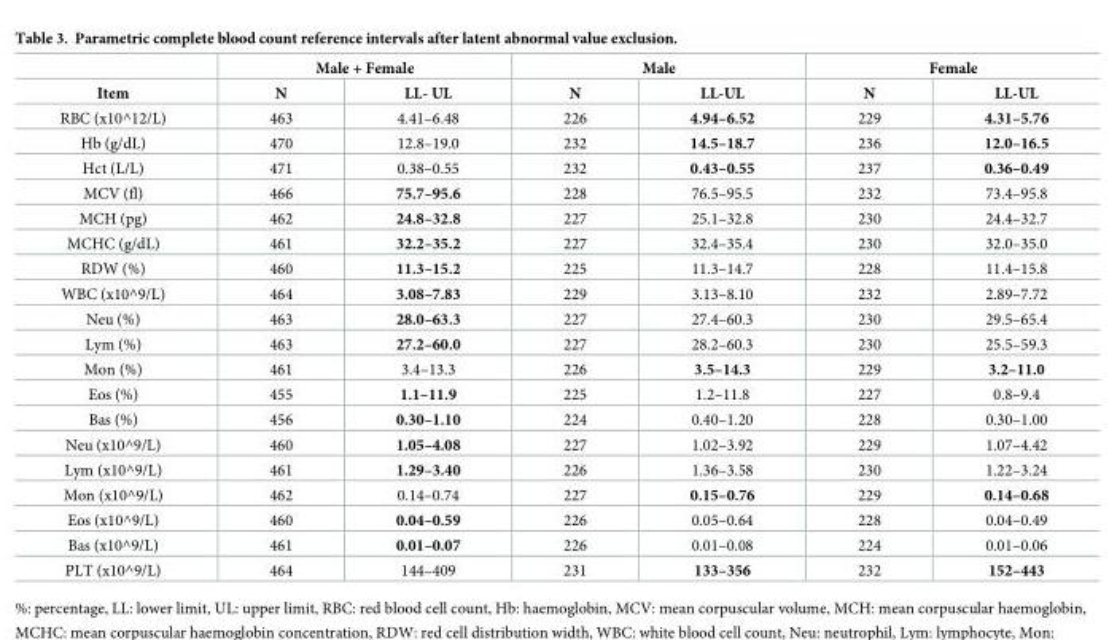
<table><thead><tr><td rowspan="2">Item</td><td colspan="2">Male + Female</td><td colspan="2">Male</td><td colspan="2">Female</td></tr><tr><td>N</td><td>LL- UL</td><td>N</td><td>LL-UL</td><td>N</td><td>LL-UL</td></tr></thead><tbody><tr><td>RBC (x10^12/L)</td><td>463</td><td>4.41–6.48</td><td>226</td><td>4.94–6.52</td><td>229</td><td>4.31–5.76</td></tr><tr><td>Hb (g/dL)</td><td>470</td><td>12.8–19.0</td><td>232</td><td>14.5–18.7</td><td>236</td><td>12.0–16.5</td></tr><tr><td>Hct (L/L)</td><td>471</td><td>0.38–0.55</td><td>232</td><td>0.43–0.55</td><td>237</td><td>0.36–0.49</td></tr><tr><td>MCV (fl)</td><td>466</td><td>75.7–95.6</td><td>228</td><td>76.5–95.5</td><td>232</td><td>73.4–95.8</td></tr><tr><td>MCH (pg)</td><td>462</td><td>24.8–32.8</td><td>227</td><td>25.1–32.8</td><td>230</td><td>24.4–32.7</td></tr><tr><td>MCHC (g/dL)</td><td>461</td><td>32.2–35.2</td><td>227</td><td>32.4–35.4</td><td>230</td><td>32.0–35.0</td></tr><tr><td>RDW (%)</td><td>460</td><td>11.3–15.2</td><td>225</td><td>11.3–14.7</td><td>228</td><td>11.4–15.8</td></tr><tr><td>WBC (x10^9/L)</td><td>464</td><td>3.08–7.83</td><td>229</td><td>3.13–8.10</td><td>232</td><td>2.89–7.72</td></tr><tr><td>Neu (%)</td><td>463</td><td>28.0–63.3</td><td>227</td><td>27.4–60.3</td><td>230</td><td>29.5–65.4</td></tr><tr><td>Lym (%)</td><td>463</td><td>27.2–60.0</td><td>227</td><td>28.2–60.3</td><td>230</td><td>25.5–59.3</td></tr><tr><td>Mon (%)</td><td>461</td><td>3.4–13.3</td><td>226</td><td>3.5–14.3</td><td>229</td><td>3.2–11.0</td></tr><tr><td>Eos (%)</td><td>455</td><td>1.1–11.9</td><td>225</td><td>1.2–11.8</td><td>227</td><td>0.8–9.4</td></tr><tr><td>Bas (%)</td><td>456</td><td>0.30–1.10</td><td>224</td><td>0.40–1.20</td><td>228</td><td>0.30–1.00</td></tr><tr><td>Neu (x10^9/L)</td><td>460</td><td>1.05–4.08</td><td>227</td><td>1.02–3.92</td><td>229</td><td>1.07–4.42</td></tr><tr><td>Lym (x10^9/L)</td><td>461</td><td>1.29–3.40</td><td>226</td><td>1.36–3.58</td><td>230</td><td>1.22–3.24</td></tr><tr><td>Mon (x10^9/L)</td><td>462</td><td>0.14–0.74</td><td>227</td><td>0.15–0.76</td><td>229</td><td>0.14–0.68</td></tr><tr><td>Eos (x10^9/L)</td><td>460</td><td>0.04–0.59</td><td>226</td><td>0.05–0.64</td><td>228</td><td>0.04–0.49</td></tr><tr><td>Bas (x10^9/L)</td><td>461</td><td>0.01–0.07</td><td>226</td><td>0.01–0.08</td><td>224</td><td>0.01–0.06</td></tr><tr><td>PLT (x10^9/L)</td><td>464</td><td>144–409</td><td>231</td><td>133–356</td><td>232</td><td>152–443</td></tr></tbody></table>